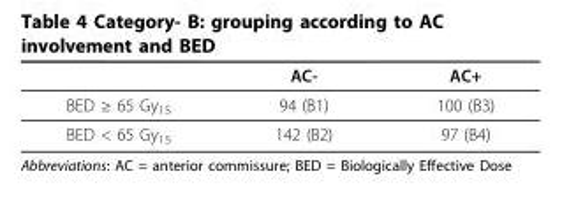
<table><thead><tr><td></td><td>AC-</td><td>AC+</td></tr></thead><tbody><tr><td>BED ≥ 65 Gy<sub>15</sub></td><td>94 (B1)</td><td>100 (B3)</td></tr><tr><td>BED &lt; 65 Gy<sub>15</sub></td><td>142 (B2)</td><td>97 (B4)</td></tr></tbody></table>